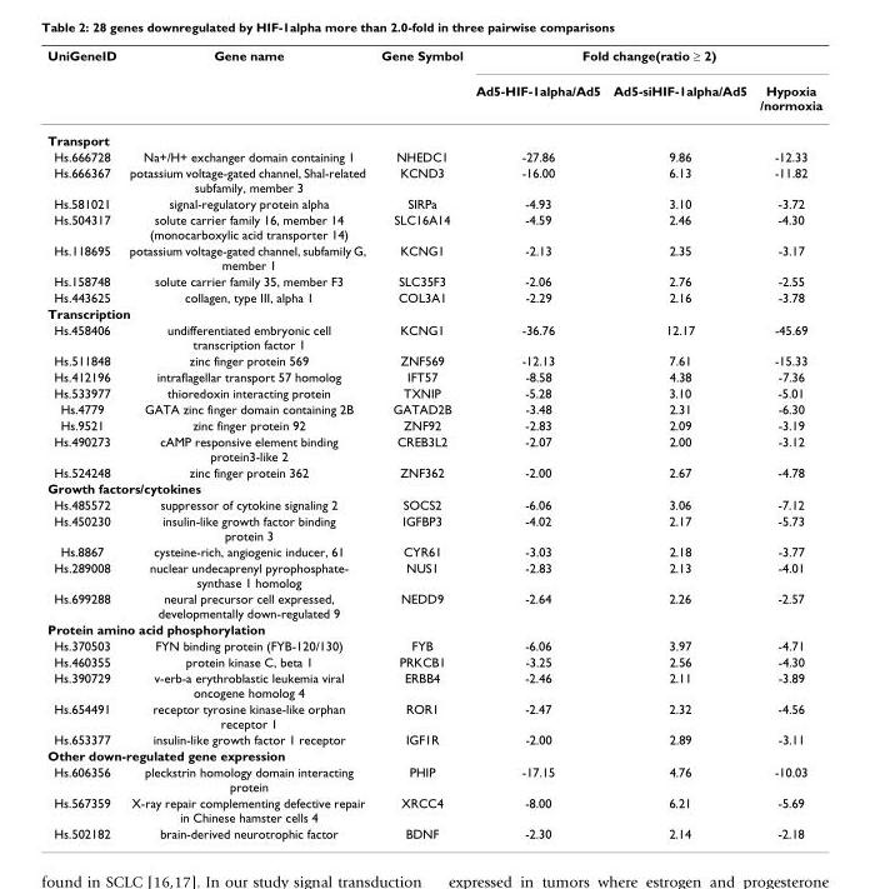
<table><thead><tr><td rowspan="2">UniGeneID</td><td rowspan="2">Gene name</td><td rowspan="2">Gene Symbol</td><td colspan="3">Fold change(ratio ≥ 2)</td></tr><tr><td>Ad5-HIF-1alpha/Ad5</td><td>Ad5-siHIF-1alpha/Ad5</td><td>Hypoxia /normoxia</td></tr></thead><tbody><tr><td colspan="6">Transport</td></tr><tr><td>Hs.666728</td><td>Na+/H+ exchanger domain containing 1</td><td>NHEDC1</td><td>-27.86</td><td>9.86</td><td>-12.33</td></tr><tr><td>Hs.666367</td><td>potassium voltage-gated channel, Shal-related subfamily, member 3</td><td>KCND3</td><td>-16.00</td><td>6.13</td><td>-11.82</td></tr><tr><td>Hs.581021</td><td>signal-regulatory protein alpha</td><td>SIRPa</td><td>-4.93</td><td>3.10</td><td>-3.72</td></tr><tr><td>Hs.504317</td><td>solute carrier family 16, member 14 (monocarboxylic acid transporter 14)</td><td>SLC16A14</td><td>-4.59</td><td>2.46</td><td>-4.30</td></tr><tr><td>Hs.118695</td><td>potassium voltage-gated channel, subfamily G, member 1</td><td>KCNG1</td><td>-2.13</td><td>2.35</td><td>-3.17</td></tr><tr><td>Hs.158748</td><td>solute carrier family 35, member F3</td><td>SLC35F3</td><td>-2.06</td><td>2.76</td><td>-2.55</td></tr><tr><td>Hs.443625</td><td>collagen, type III, alpha 1</td><td>COL3A1</td><td>-2.29</td><td>2.16</td><td>-3.78</td></tr><tr><td colspan="6">Transcription</td></tr><tr><td>Hs.458406</td><td>undifferentiated embryonic cell transcription factor 1</td><td>KCNG1</td><td>-36.76</td><td>12.17</td><td>-45.69</td></tr><tr><td>Hs.511848</td><td>zinc finger protein 569</td><td>ZNF569</td><td>-12.13</td><td>7.61</td><td>-15.33</td></tr><tr><td>Hs.412196</td><td>intraflagellar transport 57 homolog</td><td>IFT57</td><td>-8.58</td><td>4.38</td><td>-7.36</td></tr><tr><td>Hs.533977</td><td>thioredoxin interacting protein</td><td>TXNIP</td><td>-5.28</td><td>3.10</td><td>-5.01</td></tr><tr><td>Hs.4779</td><td>GATA zinc finger domain containing 2B</td><td>GATAD2B</td><td>-3.48</td><td>2.31</td><td>-6.30</td></tr><tr><td>Hs.9521</td><td>zinc finger protein 92</td><td>ZNF92</td><td>-2.83</td><td>2.09</td><td>-3.19</td></tr><tr><td>Hs.490273</td><td>cAMP responsive element binding protein3-like 2</td><td>CREB3L2</td><td>-2.07</td><td>2.00</td><td>-3.12</td></tr><tr><td>Hs.524248</td><td>zinc finger protein 362</td><td>ZNF362</td><td>-2.00</td><td>2.67</td><td>-4.78</td></tr><tr><td colspan="6">Growth factors/cytokines</td></tr><tr><td>Hs.485572</td><td>suppressor of cytokine signaling 2</td><td>SOCS2</td><td>-6.06</td><td>3.06</td><td>-7.12</td></tr><tr><td>Hs.450230</td><td>insulin-like growth factor binding protein 3</td><td>IGFBP3</td><td>-4.02</td><td>2.17</td><td>-5.73</td></tr><tr><td>Hs.8867</td><td>cysteine-rich, angiogenic inducer, 61</td><td>CYR61</td><td>-3.03</td><td>2.18</td><td>-3.77</td></tr><tr><td>Hs.289008</td><td>nuclear undecaprenyl pyrophosphate- synthase 1 homolog</td><td>NUS1</td><td>-2.83</td><td>2.13</td><td>-4.01</td></tr><tr><td>Hs.699288</td><td>neural precursor cell expressed, developmentally down-regulated 9</td><td>NEDD9</td><td>-2.64</td><td>2.26</td><td>-2.57</td></tr><tr><td colspan="6">Protein amino acid phosphorylation</td></tr><tr><td>Hs.370503</td><td>FYN binding protein (FYB-120/130)</td><td>FYB</td><td>-6.06</td><td>3.97</td><td>-4.71</td></tr><tr><td>Hs.460355</td><td>protein kinase C, beta 1</td><td>PRKCB1</td><td>-3.25</td><td>2.56</td><td>-4.30</td></tr><tr><td>Hs.390729</td><td>v-erb-a erythroblastic leukemia viral oncogene homolog 4</td><td>ERBB4</td><td>-2.46</td><td>2.11</td><td>-3.89</td></tr><tr><td>Hs.654491</td><td>receptor tyrosine kinase-like orphan receptor 1</td><td>ROR1</td><td>-2.47</td><td>2.32</td><td>-4.56</td></tr><tr><td>Hs.653377</td><td>insulin-like growth factor 1 receptor</td><td>IGF1R</td><td>-2.00</td><td>2.89</td><td>-3.11</td></tr><tr><td colspan="6">Other down-regulated gene expression</td></tr><tr><td>Hs.606356</td><td>pleckstrin homology domain interacting protein</td><td>PHIP</td><td>-17.15</td><td>4.76</td><td>-10.03</td></tr><tr><td>Hs.567359</td><td>X-ray repair complementing defective repair in Chinese hamster cells 4</td><td>XRCC4</td><td>-8.00</td><td>6.21</td><td>-5.69</td></tr><tr><td>Hs.502182</td><td>brain-derived neurotrophic factor</td><td>BDNF</td><td>-2.30</td><td>2.14</td><td>-2.18</td></tr></tbody></table>